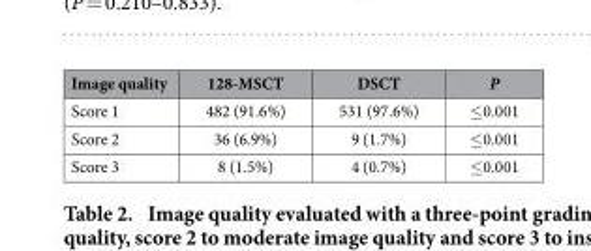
<table><thead><tr><td>Image quality</td><td>128-MSCT</td><td>DSCT</td><td>P</td></tr></thead><tbody><tr><td>Score 1</td><td>482 (91.6%)</td><td>531 (97.6%)</td><td>≤ 0.001</td></tr><tr><td>Score 2</td><td>36 (6.9%)</td><td>9 (1.7%)</td><td>≤ 0.001</td></tr><tr><td>Score 3</td><td>8 (1.5%)</td><td>4 (0.7%)</td><td>≤ 0.001</td></tr></tbody></table>